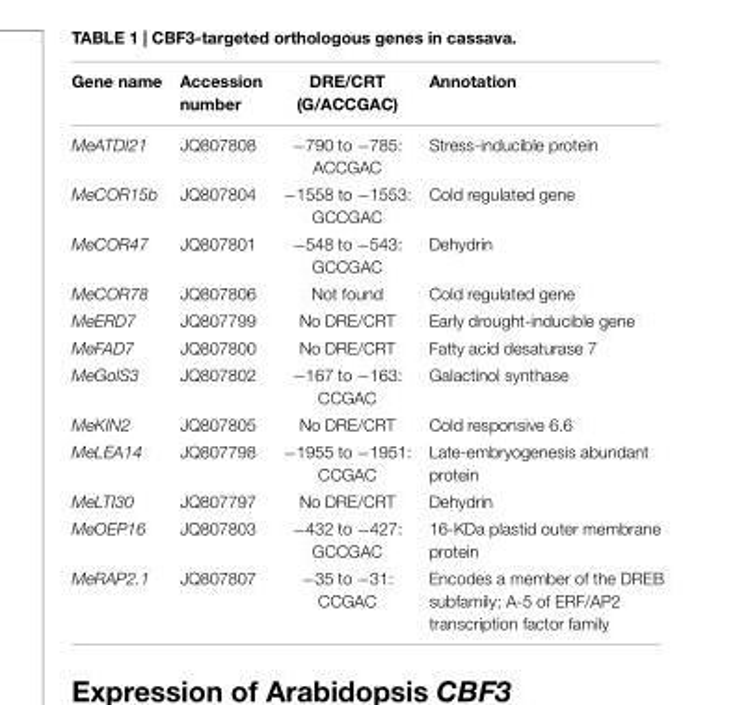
<table><thead><tr><td>Gene name</td><td>Accession number</td><td>DRE/CRT (G/ACCGAC)</td><td>Annotation</td></tr></thead><tbody><tr><td>MeATDI21</td><td>JQ807808</td><td>−790 to −785: ACCGAC</td><td>Stress-inducible protein</td></tr><tr><td>MeCOR15b</td><td>JQ807804</td><td>−1558 to −1553: GCCGAC</td><td>Cold regulated gene</td></tr><tr><td>MeCOR47</td><td>JQ807801</td><td>−548 to −543: GCCGAC</td><td>Dehydrin</td></tr><tr><td>MeCOR78</td><td>JQ807806</td><td>Not found</td><td>Cold regulated gene</td></tr><tr><td>MeERD7</td><td>JQ807799</td><td>No DRE/CRT</td><td>Early drought-inducible gene</td></tr><tr><td>MeFAD7</td><td>JQ807800</td><td>No DRE/CRT</td><td>Fatty acid desaturase 7</td></tr><tr><td>MeGolS3</td><td>JQ807802</td><td>−167 to −163: CCGAC</td><td>Galactinol synthase</td></tr><tr><td>MeKIN2</td><td>JQ807805</td><td>No DRE/CRT</td><td>Cold responsive 6.6</td></tr><tr><td>MeLEA14</td><td>JQ807798</td><td>−1955 to −1951: CCGAC</td><td>Late-embryogenesis abundant protein</td></tr><tr><td>MeLTI30</td><td>JQ807797</td><td>No DRE/CRT</td><td>Dehydrin</td></tr><tr><td>MeOEP16</td><td>JQ807803</td><td>−432 to −427: GCCGAC</td><td>16-KDa plastid outer membrane protein</td></tr><tr><td>MeRAP2.1</td><td>JQ807807</td><td>−35 to −31: CCGAC</td><td>Encodes a member of the DREB subfamily; A-5 of ERF/AP2 transcription factor family</td></tr></tbody></table>